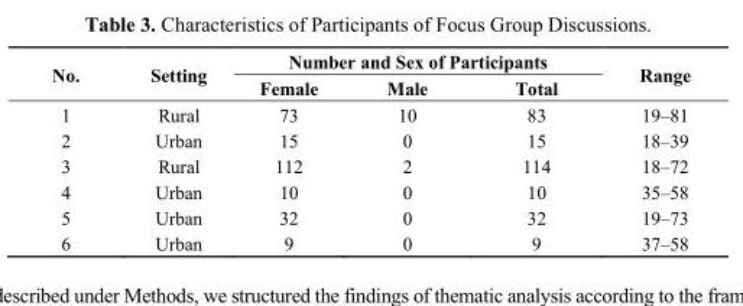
<table><thead><tr><td rowspan="2">No.</td><td rowspan="2">Setting</td><td colspan="3">Number and Sex of Participants</td><td rowspan="2">Range</td></tr><tr><td>Female</td><td>Male</td><td>Total</td></tr></thead><tbody><tr><td>1</td><td>Rural</td><td>73</td><td>10</td><td>83</td><td>19–81</td></tr><tr><td>2</td><td>Urban</td><td>15</td><td>0</td><td>15</td><td>18–39</td></tr><tr><td>3</td><td>Rural</td><td>112</td><td>2</td><td>114</td><td>18–72</td></tr><tr><td>4</td><td>Urban</td><td>10</td><td>0</td><td>10</td><td>35–58</td></tr><tr><td>5</td><td>Urban</td><td>32</td><td>0</td><td>32</td><td>19–73</td></tr><tr><td>6</td><td>Urban</td><td>9</td><td>0</td><td>9</td><td>37–58</td></tr></tbody></table>